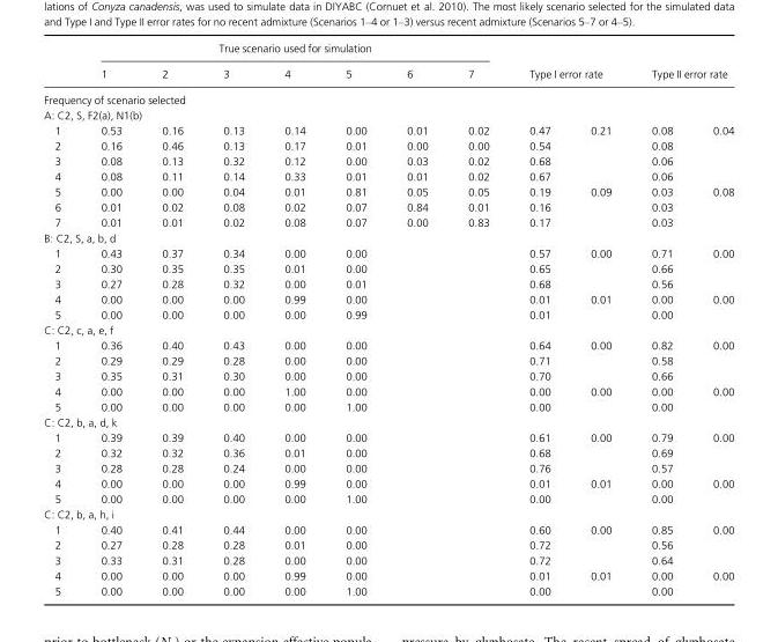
<table><thead><tr><td rowspan="2"></td><td colspan="7">True scenario used for simulation</td><td rowspan="2" colspan="2">Type I error rate</td><td rowspan="2" colspan="2">Type II error rate</td></tr><tr><td>1</td><td>2</td><td>3</td><td>4</td><td>5</td><td>6</td><td>7</td></tr><tr><td rowspan="2" colspan="12">Frequency of scenario selected A: C2, S, F2(a), N1(b)</td></tr><tr></tr><tr><td>1</td><td>0.53</td><td>0.16</td><td>0.13</td><td>0.14</td><td>0.00</td><td>0.01</td><td>0.02</td><td>0.47</td><td>0.21</td><td>0.08</td><td>0.04</td></tr></thead><tbody><tr><td>2</td><td>0.16</td><td>0.46</td><td>0.13</td><td>0.17</td><td>0.01</td><td>0.00</td><td>0.00</td><td>0.54</td><td></td><td>0.08</td><td></td></tr><tr><td>3</td><td>0.08</td><td>0.13</td><td>0.32</td><td>0.12</td><td>0.00</td><td>0.03</td><td>0.02</td><td>0.68</td><td></td><td>0.06</td><td></td></tr><tr><td>4</td><td>0.08</td><td>0.11</td><td>0.14</td><td>0.33</td><td>0.01</td><td>0.01</td><td>0.02</td><td>0.67</td><td></td><td>0.06</td><td></td></tr><tr><td>5</td><td>0.00</td><td>0.00</td><td>0.04</td><td>0.01</td><td>0.81</td><td>0.05</td><td>0.05</td><td>0.19</td><td>0.09</td><td>0.03</td><td>0.08</td></tr><tr><td>6</td><td>0.01</td><td>0.02</td><td>0.08</td><td>0.02</td><td>0.07</td><td>0.84</td><td>0.01</td><td>0.16</td><td></td><td>0.03</td><td></td></tr><tr><td>7</td><td>0.01</td><td>0.01</td><td>0.02</td><td>0.08</td><td>0.07</td><td>0.00</td><td>0.83</td><td>0.17</td><td></td><td>0.03</td><td></td></tr><tr><td colspan="12">B: C2, S, a, b, d</td></tr><tr><td>1</td><td>0.43</td><td>0.37</td><td>0.34</td><td>0.00</td><td>0.00</td><td></td><td></td><td>0.57</td><td>0.00</td><td>0.71</td><td>0.00</td></tr><tr><td>2</td><td>0.30</td><td>0.35</td><td>0.35</td><td>0.01</td><td>0.00</td><td></td><td></td><td>0.65</td><td></td><td>0.66</td><td></td></tr><tr><td>3</td><td>0.27</td><td>0.28</td><td>0.32</td><td>0.00</td><td>0.01</td><td></td><td></td><td>0.68</td><td></td><td>0.56</td><td></td></tr><tr><td>4</td><td>0.00</td><td>0.00</td><td>0.00</td><td>0.99</td><td>0.00</td><td></td><td></td><td>0.01</td><td>0.01</td><td>0.00</td><td>0.00</td></tr><tr><td>5</td><td>0.00</td><td>0.00</td><td>0.00</td><td>0.00</td><td>0.99</td><td></td><td></td><td>0.01</td><td></td><td>0.00</td><td></td></tr><tr><td colspan="12">C: C2, c, a, e, f</td></tr><tr><td>1</td><td>0.36</td><td>0.40</td><td>0.43</td><td>0.00</td><td>0.00</td><td></td><td></td><td>0.64</td><td>0.00</td><td>0.82</td><td>0.00</td></tr><tr><td>2</td><td>0.29</td><td>0.29</td><td>0.28</td><td>0.00</td><td>0.00</td><td></td><td></td><td>0.71</td><td></td><td>0.58</td><td></td></tr><tr><td>3</td><td>0.35</td><td>0.31</td><td>0.30</td><td>0.00</td><td>0.00</td><td></td><td></td><td>0.70</td><td></td><td>0.66</td><td></td></tr><tr><td>4</td><td>0.00</td><td>0.00</td><td>0.00</td><td>1.00</td><td>0.00</td><td></td><td></td><td>0.00</td><td>0.00</td><td>0.00</td><td>0.00</td></tr><tr><td>5</td><td>0.00</td><td>0.00</td><td>0.00</td><td>0.00</td><td>1.00</td><td></td><td></td><td>0.00</td><td></td><td>0.00</td><td></td></tr><tr><td colspan="12">C: C2, b, a, d, k</td></tr><tr><td>1</td><td>0.39</td><td>0.39</td><td>0.40</td><td>0.00</td><td>0.00</td><td></td><td></td><td>0.61</td><td>0.00</td><td>0.79</td><td>0.00</td></tr><tr><td>2</td><td>0.32</td><td>0.32</td><td>0.36</td><td>0.01</td><td>0.00</td><td></td><td></td><td>0.68</td><td></td><td>0.69</td><td></td></tr><tr><td>3</td><td>0.28</td><td>0.28</td><td>0.24</td><td>0.00</td><td>0.00</td><td></td><td></td><td>0.76</td><td></td><td>0.57</td><td></td></tr><tr><td>4</td><td>0.00</td><td>0.00</td><td>0.00</td><td>0.99</td><td>0.00</td><td></td><td></td><td>0.01</td><td>0.01</td><td>0.00</td><td>0.00</td></tr><tr><td>5</td><td>0.00</td><td>0.00</td><td>0.00</td><td>0.00</td><td>1.00</td><td></td><td></td><td>0.00</td><td></td><td>0.00</td><td></td></tr><tr><td colspan="12">C: C2, b, a, h, i</td></tr><tr><td>1</td><td>0.40</td><td>0.41</td><td>0.44</td><td>0.00</td><td>0.00</td><td></td><td></td><td>0.60</td><td>0.00</td><td>0.85</td><td>0.00</td></tr><tr><td>2</td><td>0.27</td><td>0.28</td><td>0.28</td><td>0.01</td><td>0.00</td><td></td><td></td><td>0.72</td><td></td><td>0.56</td><td></td></tr><tr><td>3</td><td>0.33</td><td>0.31</td><td>0.28</td><td>0.00</td><td>0.00</td><td></td><td></td><td>0.72</td><td></td><td>0.64</td><td></td></tr><tr><td>4</td><td>0.00</td><td>0.00</td><td>0.00</td><td>0.99</td><td>0.00</td><td></td><td></td><td>0.01</td><td>0.01</td><td>0.00</td><td>0.00</td></tr><tr><td>5</td><td>0.00</td><td>0.00</td><td>0.00</td><td>0.00</td><td>1.00</td><td></td><td></td><td>0.00</td><td></td><td>0.00</td><td></td></tr></tbody></table>